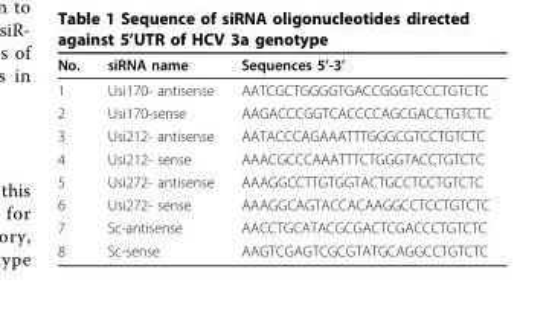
<table><thead><tr><td>No.</td><td>siRNA name</td><td>Sequences 5’-3’</td></tr></thead><tbody><tr><td>1</td><td>Usi170- antisense</td><td>AATCGCTGGGGTGACCGGGTCCCTGTCTC</td></tr><tr><td>2</td><td>Usi170-sense</td><td>AAGACCCGGTCACCCCAGCGACCTGTCTC</td></tr><tr><td>3</td><td>Usi212- antisense</td><td>AATACCCAGAAATTTGGGCGTCCTGTCTC</td></tr><tr><td>4</td><td>Usi212- sense</td><td>AAACGCCCAAATTTCTGGGTACCTGTCTC</td></tr><tr><td>5</td><td>Usi272- antisense</td><td>AAAGGCCTTGTGGTACTGCCTCCTGTCTC</td></tr><tr><td>6</td><td>Usi272- sense</td><td>AAAGGCAGTACCACAAGGCCTCCTGTCTC</td></tr><tr><td>7</td><td>Sc-antisense</td><td>AACCTGCATACGCGACTCGACCCTGTCTC</td></tr><tr><td>8</td><td>Sc-sense</td><td>AAGTCGAGTCGCGTATGCAGGCCTGTCTC</td></tr></tbody></table>